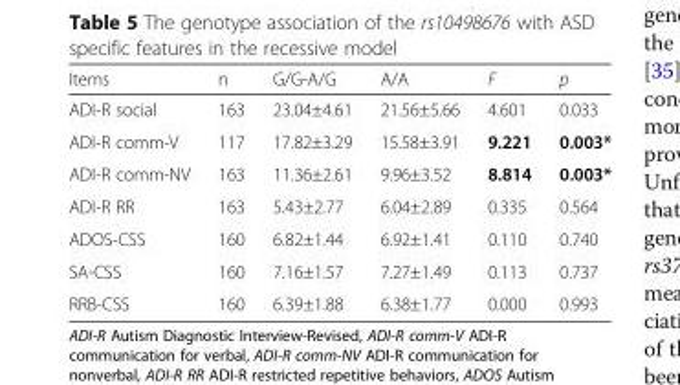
<table><thead><tr><td>Items</td><td>n</td><td>G/G-A/G</td><td>A/A</td><td>F</td><td>p</td></tr></thead><tbody><tr><td>ADI-R social</td><td>163</td><td>23.04±4.61</td><td>21.56±5.66</td><td>4.601</td><td>0.033</td></tr><tr><td>ADI-R comm-V</td><td>117</td><td>17.82±3.29</td><td>15.58±3.91</td><td>9.221</td><td>0.003*</td></tr><tr><td>ADI-R comm-NV</td><td>163</td><td>11.36±2.61</td><td>9.96±3.52</td><td>8.814</td><td>0.003*</td></tr><tr><td>ADI-R RR</td><td>163</td><td>5.43±2.77</td><td>6.04±2.89</td><td>0.335</td><td>0.564</td></tr><tr><td>ADOS-CSS</td><td>160</td><td>6.82±1.44</td><td>6.92±1.41</td><td>0.110</td><td>0.740</td></tr><tr><td>SA-CSS</td><td>160</td><td>7.16±1.57</td><td>7.27±1.49</td><td>0.113</td><td>0.737</td></tr><tr><td>RRB-CSS</td><td>160</td><td>6.39±1.88</td><td>6.38±1.77</td><td>0.000</td><td>0.993</td></tr></tbody></table>